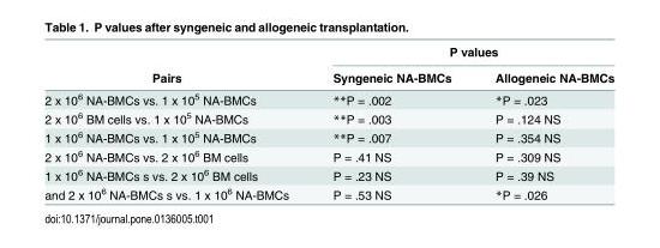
<table><thead><tr><td rowspan="2">Pairs</td><td colspan="2">P values</td></tr><tr><td>Syngeneic NA-BMCs</td><td>Allogeneic NA-BMCs</td></tr></thead><tbody><tr><td>2 x 10<sup>6</sup> NA-BMCs vs. 1 x 10<sup>5</sup> NA-BMCs</td><td>**P = .002</td><td>*P = .023</td></tr><tr><td>2 x 10<sup>6</sup> BM cells vs. 1 x 10<sup>5</sup> NA-BMCs</td><td>**P = .003</td><td>P = .124 NS</td></tr><tr><td>1 x 10<sup>6</sup> NA-BMCs vs. 1 x 10<sup>5</sup> NA-BMCs</td><td>**P = .007</td><td>P = .354 NS</td></tr><tr><td>2 x 10<sup>6</sup> NA-BMCs vs. 2 x 10<sup>6</sup> BM cells</td><td>P = .41 NS</td><td>P = .309 NS</td></tr><tr><td>1 x 10<sup>6</sup> NA-BMCs s vs. 2 x 10<sup>6</sup> BM cells</td><td>P = .23 NS</td><td>P = .39 NS</td></tr><tr><td>and 2 x 10<sup>6</sup> NA-BMCs s vs. 1 x 10<sup>6</sup> NA-BMCs</td><td>P = .53 NS</td><td>*P = .026</td></tr></tbody></table>